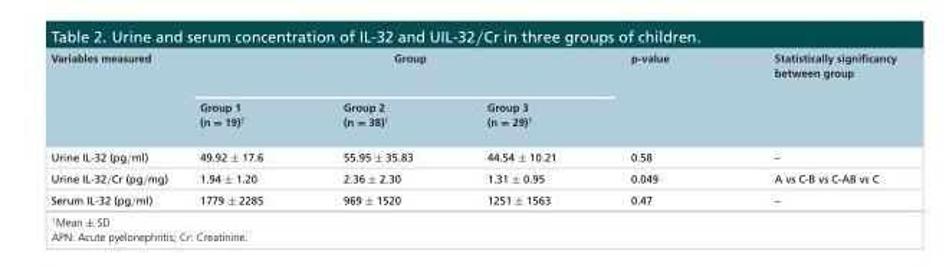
<table><thead><tr><td rowspan="2">Variables measured</td><td colspan="3">Group</td><td rowspan="2">p-value</td><td rowspan="2">Statistically significancy between group</td></tr><tr><td>Group 1 (n = 19)<sup>†</sup></td><td>Group 2 (n = 38)<sup>†</sup></td><td>Group 3 (n = 29)<sup>†</sup></td></tr></thead><tbody><tr><td>Urine IL-32 (pg/ml)</td><td>49.92 ± 17.6</td><td>55.95 ± 35.83</td><td>44.54 ± 10.21</td><td>0.58</td><td>–</td></tr><tr><td>Urine IL-32/Cr (pg/mg)</td><td>1.94 ± 1.20</td><td>2.36 ± 2.30</td><td>1.31 ± 0.95</td><td>0.049</td><td>A vs C-B vs C-AB vs C</td></tr><tr><td>Serum IL-32 (pg/ml)</td><td>1779 ± 2285</td><td>969 ± 1520</td><td>1251 ± 1563</td><td>0.47</td><td>–</td></tr></tbody></table>